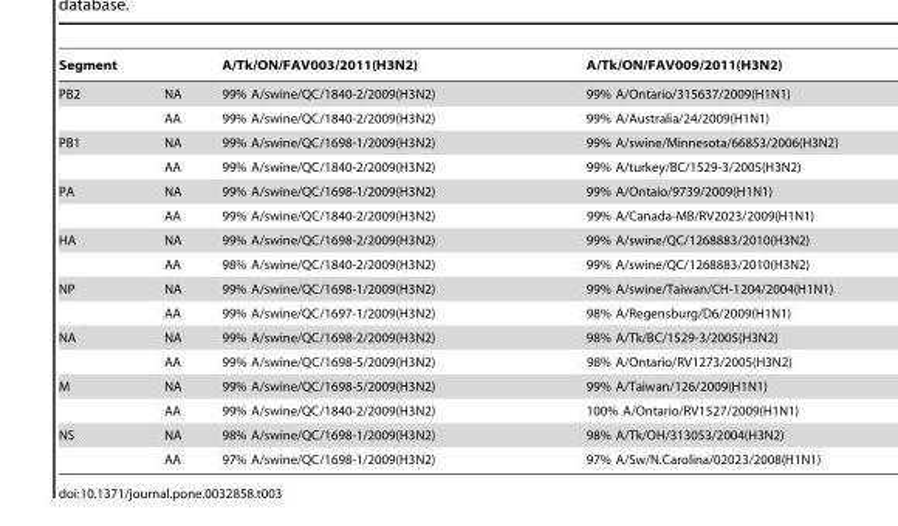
<table><thead><tr><td>Segment</td><td></td><td>A/Tk/ON/FAV003/2011(H3N2)</td><td>A/Tk/ON/FAV009/2011(H3N2)</td></tr></thead><tbody><tr><td rowspan="2">PB2</td><td>NA</td><td>99% A/swine/QC/1840-2/2009(H3N2)</td><td>99% A/Ontario/315637/2009(H1N1)</td></tr><tr><td>AA</td><td>99% A/swine/QC/1840-2/2009(H3N2)</td><td>99% A/Australia/24/2009(H1N1)</td></tr><tr><td rowspan="2">PB1</td><td>NA</td><td>99% A/swine/QC/1698-1/2009(H3N2)</td><td>99% A/swine/Minnesota/66853/2006(H3N2)</td></tr><tr><td>AA</td><td>99% A/swine/QC/1840-2/2009(H3N2)</td><td>99% A/turkey/BC/1529-3/2005(H3N2)</td></tr><tr><td rowspan="2">PA</td><td>NA</td><td>99% A/swine/QC/1698-1/2009(H3N2)</td><td>99% A/Ontaio/9739/2009(H1N1)</td></tr><tr><td>AA</td><td>99% A/swine/QC/1840-2/2009(H3N2)</td><td>99% A/Canada-MB/RV2023/2009(H1N1)</td></tr><tr><td rowspan="2">HA</td><td>NA</td><td>99% A/swine/QC/1698-2/2009(H3N2)</td><td>99% A/swine/QC/1268883/2010(H3N2)</td></tr><tr><td>AA</td><td>98% A/swine/QC/1840-2/2009(H3N2)</td><td>99% A/swine/QC/1268883/2010(H3N2)</td></tr><tr><td rowspan="2">NP</td><td>NA</td><td>99% A/swine/QC/1698-1/2009(H3N2)</td><td>99% A/swine/Taiwan/CH-1204/2004(H1N1)</td></tr><tr><td>AA</td><td>99% A/swine/QC/1697-1/2009(H3N2)</td><td>98% A/Regensburg/D6/2009(H1N1)</td></tr><tr><td rowspan="2">NA</td><td>NA</td><td>99% A/swine/QC/1698-2/2009(H3N2)</td><td>98% A/Tk/BC/1529-3/2005(H3N2)</td></tr><tr><td>AA</td><td>99% A/swine/QC/1698-5/2009(H3N2)</td><td>98% A/Ontario/RV1273/2005(H3N2)</td></tr><tr><td rowspan="2">M</td><td>NA</td><td>99% A/swine/QC/1698-5/2009(H3N2)</td><td>99% A/Taiwan/126/2009(H1N1)</td></tr><tr><td>AA</td><td>99% A/swine/QC/1840-2/2009(H3N2)</td><td>100% A/Ontario/RV1527/2009(H1N1)</td></tr><tr><td rowspan="2">NS</td><td>NA</td><td>98% A/swine/QC/1698-1/2009(H3N2)</td><td>98% A/Tk/OH/313053/2004(H3N2)</td></tr><tr><td>AA</td><td>97% A/swine/QC/1698-1/2009(H3N2)</td><td>97% A/Sw/N.Carolina/02023/2008(H1N1)</td></tr></tbody></table>